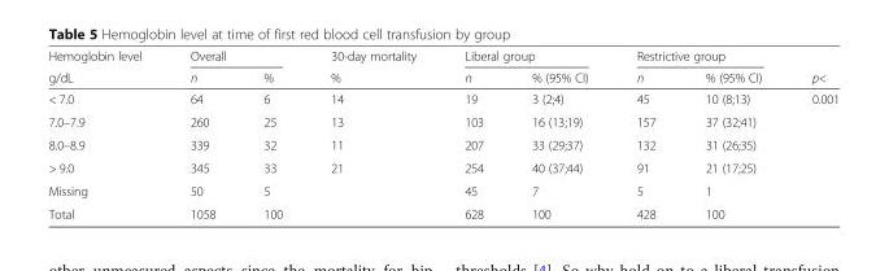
<table><thead><tr><td rowspan="2">Hemoglobin level g/dL</td><td colspan="2">Overall</td><td rowspan="2">30-day mortality %</td><td colspan="2">Liberal group</td><td colspan="2">Restrictive group</td><td rowspan="2">p&lt;</td></tr><tr><td>n</td><td>%</td><td>n</td><td>% (95% CI)</td><td>n</td><td>% (95% CI)</td></tr></thead><tbody><tr><td>&lt; 7.0</td><td>64</td><td>6</td><td>14</td><td>19</td><td>3 (2;4)</td><td>45</td><td>10 (8;13)</td><td rowspan="4">0.001</td></tr><tr><td>7.0–7.9</td><td>260</td><td>25</td><td>13</td><td>103</td><td>16 (13;19)</td><td>157</td><td>37 (32;41)</td></tr><tr><td>8.0–8.9</td><td>339</td><td>32</td><td>11</td><td>207</td><td>33 (29;37)</td><td>132</td><td>31 (26;35)</td></tr><tr><td>&gt; 9.0</td><td>345</td><td>33</td><td>21</td><td>254</td><td>40 (37;44)</td><td>91</td><td>21 (17;25)</td></tr><tr><td>Missing</td><td>50</td><td>5</td><td></td><td>45</td><td>7</td><td>5</td><td>1</td><td></td></tr><tr><td>Total</td><td>1058</td><td>100</td><td></td><td>628</td><td>100</td><td>428</td><td>100</td><td></td></tr></tbody></table>